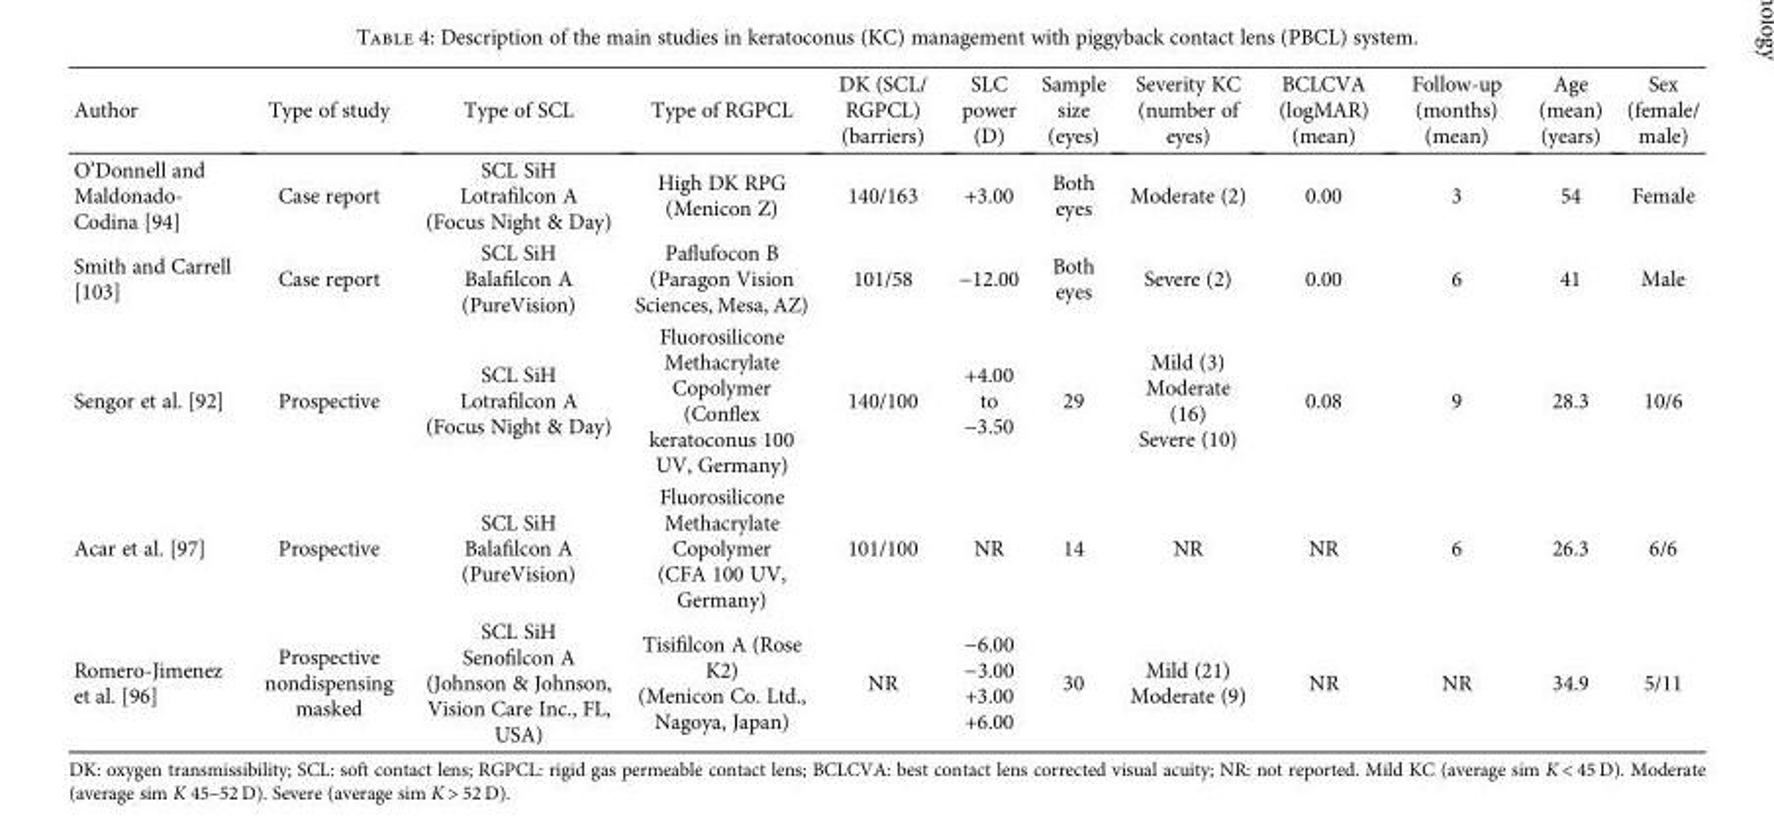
<table><thead><tr><td>Author</td><td>Type of study</td><td>Type of SCL</td><td>Type of RGPCL</td><td>DK (SCL/ RGPCL) (barriers)</td><td>SLC power (D)</td><td>Sample size (eyes)</td><td>Severity KC (number of eyes)</td><td>BCLCVA (logMAR) (mean)</td><td>Follow-up (months) (mean)</td><td>Age (mean) (years)</td><td>Sex (female/ male)</td></tr></thead><tbody><tr><td>O’Donnell and Maldonado- Codina [94]</td><td>Case report</td><td>SCL SiH Lotrafilcon A (Focus Night &amp; Day)</td><td>High DK RPG (Menicon Z)</td><td>140/163</td><td>+3.00</td><td>Both eyes</td><td>Moderate (2)</td><td>0.00</td><td>3</td><td>54</td><td>Female</td></tr><tr><td>Smith and Carrell [103]</td><td>Case report</td><td>SCL SiH Balafilcon A (PureVision)</td><td>Paflufocon B (Paragon Vision Sciences, Mesa, AZ)</td><td>101/58</td><td>−12.00</td><td>Both eyes</td><td>Severe (2)</td><td>0.00</td><td>6</td><td>41</td><td>Male</td></tr><tr><td>Sengor et al. [92]</td><td>Prospective</td><td>SCL SiH Lotrafilcon A (Focus Night &amp; Day)</td><td>Fluorosilicone Methacrylate Copolymer (Conflex keratoconus 100 UV, Germany)</td><td>140/100</td><td>+4.00 to −3.50</td><td>29</td><td>Mild (3) Moderate (16) Severe (10)</td><td>0.08</td><td>9</td><td>28.3</td><td>10/6</td></tr><tr><td>Acar et al. [97]</td><td>Prospective</td><td>SCL SiH Balafilcon A (PureVision)</td><td>Fluorosilicone Methacrylate Copolymer (CFA 100 UV, Germany)</td><td>101/100</td><td>NR</td><td>14</td><td>NR</td><td>NR</td><td>6</td><td>26.3</td><td>6/6</td></tr><tr><td>Romero-Jimenez et al. [96]</td><td>Prospective nondispensing masked</td><td>SCL SiH Senofilcon A (Johnson &amp; Johnson, Vision Care Inc., FL, USA)</td><td>Tisifilcon A (Rose K2) (Menicon Co. Ltd., Nagoya, Japan)</td><td>NR</td><td>−6.00 −3.00 +3.00 +6.00</td><td>30</td><td>Mild (21) Moderate (9)</td><td>NR</td><td>NR</td><td>34.9</td><td>5/11</td></tr></tbody></table>